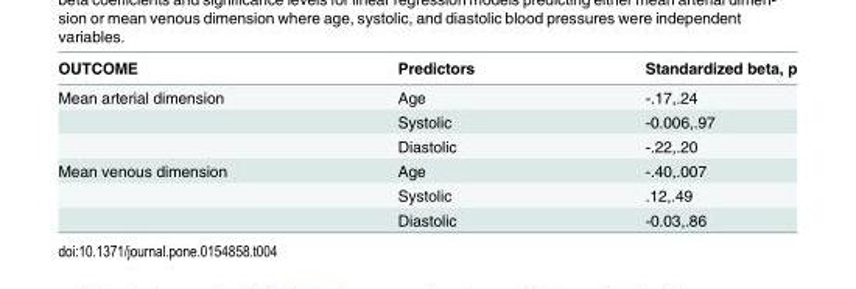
<table><thead><tr><td>OUTCOME</td><td>Predictors</td><td>Standardized beta, p</td></tr></thead><tbody><tr><td rowspan="3">Mean arterial dimension</td><td>Age</td><td>-.17,.24</td></tr><tr><td>Systolic</td><td>-0.006,.97</td></tr><tr><td>Diastolic</td><td>-.22,.20</td></tr><tr><td rowspan="3">Mean venous dimension</td><td>Age</td><td>-.40,.007</td></tr><tr><td>Systolic</td><td>.12,.49</td></tr><tr><td>Diastolic</td><td>-0.03,.86</td></tr></tbody></table>